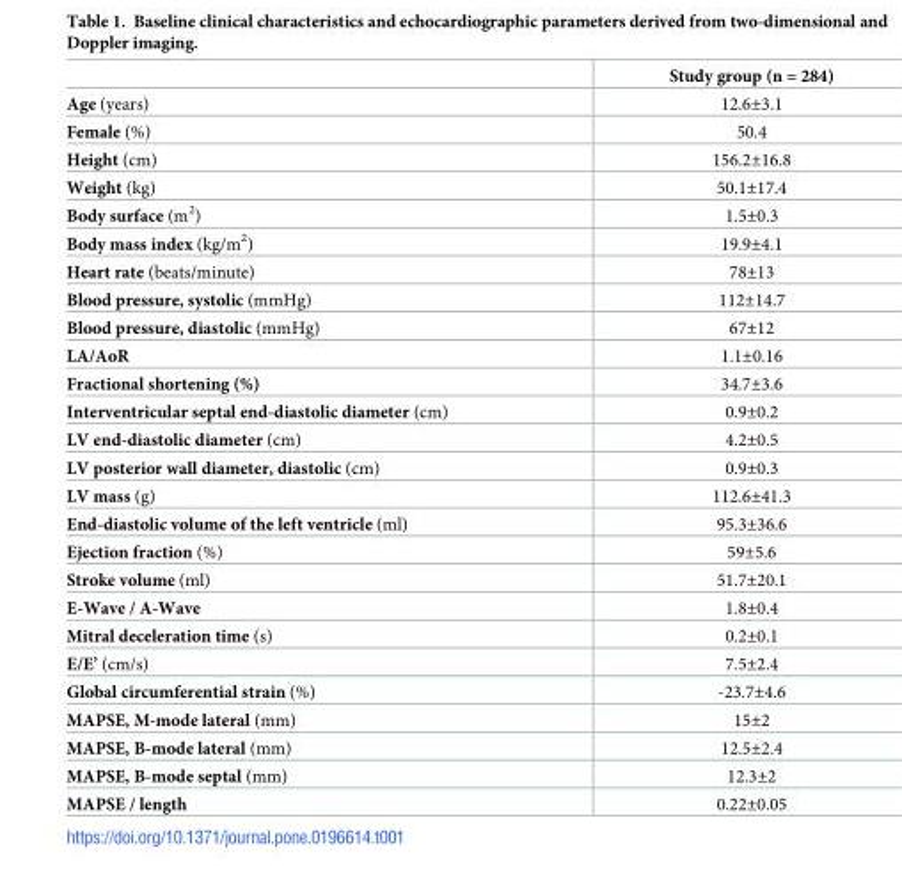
<table><thead><tr><td></td><td>Study group (n = 284)</td></tr></thead><tbody><tr><td>Age (years)</td><td>12.6±3.1</td></tr><tr><td>Female (%)</td><td>50.4</td></tr><tr><td>Height (cm)</td><td>156.2±16.8</td></tr><tr><td>Weight (kg)</td><td>50.1±17.4</td></tr><tr><td>Body surface (m<sup>2</sup>)</td><td>1.5±0.3</td></tr><tr><td>Body mass index (kg/m<sup>2</sup>)</td><td>19.9±4.1</td></tr><tr><td>Heart rate (beats/minute)</td><td>78±13</td></tr><tr><td>Blood pressure, systolic (mmHg)</td><td>112±14.7</td></tr><tr><td>Blood pressure, diastolic (mmHg)</td><td>67±12</td></tr><tr><td>LA/AoR</td><td>1.1±0.16</td></tr><tr><td>Fractional shortening (%)</td><td>34.7±3.6</td></tr><tr><td>Interventricular septal end-diastolic diameter (cm)</td><td>0.9±0.2</td></tr><tr><td>LV end-diastolic diameter (cm)</td><td>4.2±0.5</td></tr><tr><td>LV posterior wall diameter, diastolic (cm)</td><td>0.9±0.3</td></tr><tr><td>LV mass (g)</td><td>112.6±41.3</td></tr><tr><td>End-diastolic volume of the left ventricle (ml)</td><td>95.3±36.6</td></tr><tr><td>Ejection fraction (%)</td><td>59±5.6</td></tr><tr><td>Stroke volume (ml)</td><td>51.7±20.1</td></tr><tr><td>E-Wave / A-Wave</td><td>1.8±0.4</td></tr><tr><td>Mitral deceleration time (s)</td><td>0.2±0.1</td></tr><tr><td>E/E’ (cm/s)</td><td>7.5±2.4</td></tr><tr><td>Global circumferential strain (%)</td><td>-23.7±4.6</td></tr><tr><td>MAPSE, M-mode lateral (mm)</td><td>15±2</td></tr><tr><td>MAPSE, B-mode lateral (mm)</td><td>12.5±2.4</td></tr><tr><td>MAPSE, B-mode septal (mm)</td><td>12.3±2</td></tr><tr><td>MAPSE / length</td><td>0.22±0.05</td></tr></tbody></table>